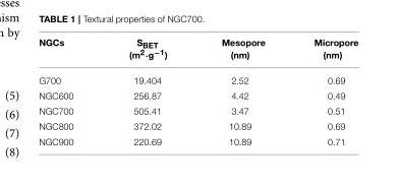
<table><thead><tr><td>NGCs</td><td>S<sub>BET</sub> (m<sup>2</sup>·g<sup>−1</sup>)</td><td>Mesopore (nm)</td><td>Micropore (nm)</td></tr></thead><tbody><tr><td>G700</td><td>19.404</td><td>2.52</td><td>0.69</td></tr><tr><td>NGC600</td><td>256.87</td><td>4.42</td><td>0.49</td></tr><tr><td>NGC700</td><td>505.41</td><td>3.47</td><td>0.51</td></tr><tr><td>NGC800</td><td>372.02</td><td>10.89</td><td>0.69</td></tr><tr><td>NGC900</td><td>220.69</td><td>10.89</td><td>0.71</td></tr></tbody></table>